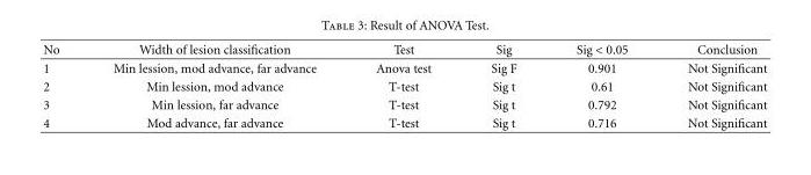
<table><thead><tr><td>No</td><td>Width of lesion classification</td><td>Test</td><td>Sig</td><td>Sig &lt; 0.05</td><td>Conclusion</td></tr></thead><tbody><tr><td>1</td><td>Min lession, mod advance, far advance</td><td>Anova test</td><td>Sig F</td><td>0.901</td><td>Not Significant</td></tr><tr><td>2</td><td>Min lession, mod advance</td><td>T-test</td><td>Sig t</td><td>0.61</td><td>Not Significant</td></tr><tr><td>3</td><td>Min lession, far advance</td><td>T-test</td><td>Sig t</td><td>0.792</td><td>Not Significant</td></tr><tr><td>4</td><td>Mod advance, far advance</td><td>T-test</td><td>Sig t</td><td>0.716</td><td>Not Significant</td></tr></tbody></table>